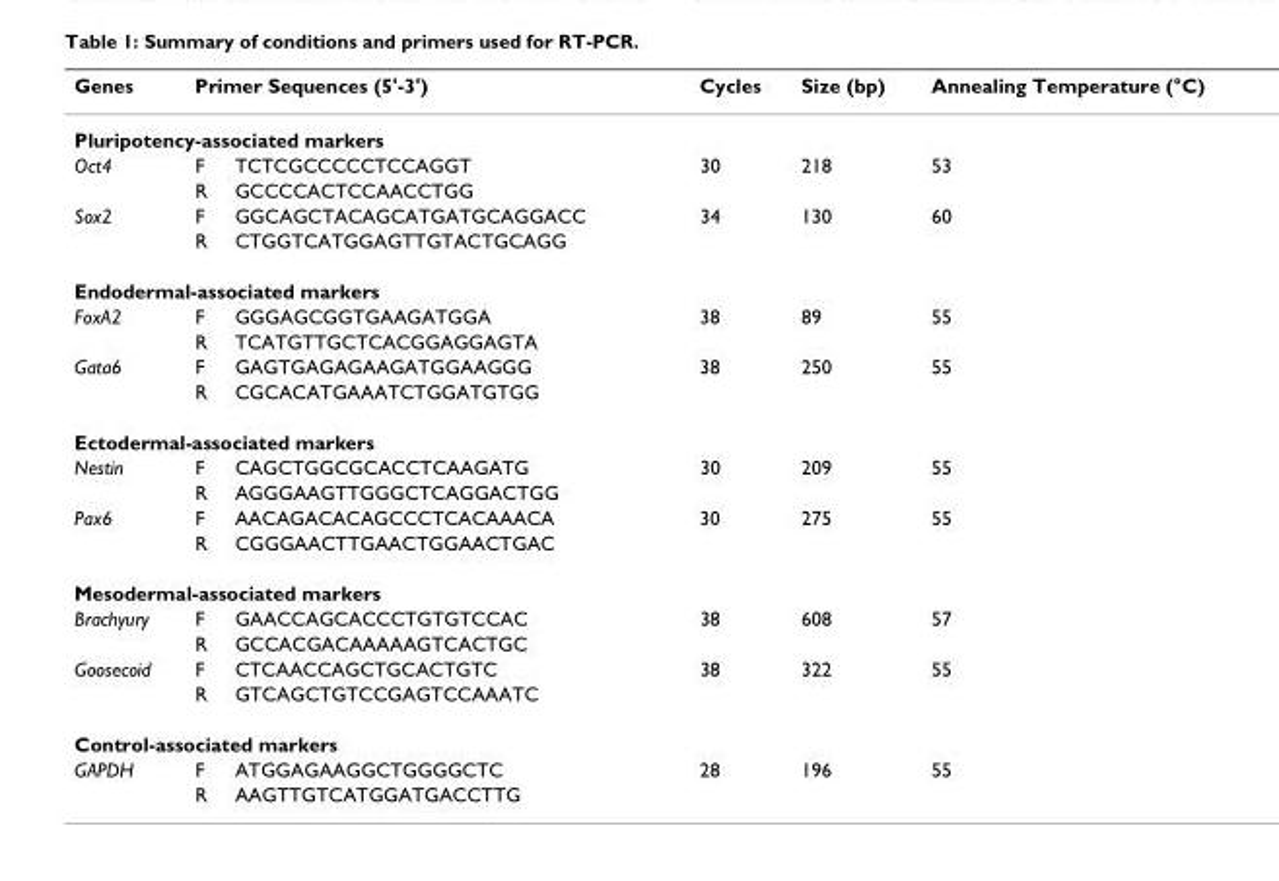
<table><thead><tr><td>Genes</td><td colspan="2">Primer Sequences (5&#x27;-3&#x27;)</td><td>Cycles</td><td>Size (bp)</td><td>Annealing Temperature (°C)</td></tr><tr><td colspan="6">Pluripotency-associated markers</td></tr><tr><td>Oct4</td><td>F</td><td>TCTCGCCCCCTCCAGGT</td><td>30</td><td>218</td><td>53</td></tr></thead><tbody><tr><td></td><td>R</td><td>GCCCCACTCCAACCTGG</td><td></td><td></td><td></td></tr><tr><td rowspan="2">Sox2</td><td>F</td><td>GGCAGCTACAGCATGATGCAGGACC</td><td>34</td><td>130</td><td>60</td></tr><tr><td>R</td><td>CTGGTCATGGAGTTGTACTGCAGG</td><td></td><td></td><td></td></tr><tr><td colspan="6">Endodermal-associated markers</td></tr><tr><td rowspan="2">FoxA2</td><td>F</td><td>GGGAGCGGTGAAGATGGA</td><td>38</td><td>89</td><td>55</td></tr><tr><td>R</td><td>TCATGTTGCTCACGGAGGAGTA</td><td></td><td></td><td></td></tr><tr><td rowspan="2">Gata6</td><td>F</td><td>GAGTGAGAGAAGATGGAAGGG</td><td>38</td><td>250</td><td>55</td></tr><tr><td>R</td><td>CGCACATGAAATCTGGATGTGG</td><td></td><td></td><td></td></tr><tr><td colspan="6">Ectodermal-associated markers</td></tr><tr><td rowspan="2">Nestin</td><td>F</td><td>CAGCTGGCGCACCTCAAGATG</td><td>30</td><td>209</td><td>55</td></tr><tr><td>R</td><td>AGGGAAGTTGGGCTCAGGACTGG</td><td></td><td></td><td></td></tr><tr><td rowspan="2">Pax6</td><td>F</td><td>AACAGACACAGCCCTCACAAACA</td><td>30</td><td>275</td><td>55</td></tr><tr><td>R</td><td>CGGGAACTTGAACTGGAACTGAC</td><td></td><td></td><td></td></tr><tr><td colspan="6">Mesodermal-associated markers</td></tr><tr><td rowspan="2">Brachyury</td><td>F</td><td>GAACCAGCACCCTGTGTCCAC</td><td>38</td><td>608</td><td>57</td></tr><tr><td>R</td><td>GCCACGACAAAAAGTCACTGC</td><td></td><td></td><td></td></tr><tr><td rowspan="2">Goosecoid</td><td>F</td><td>CTCAACCAGCTGCACTGTC</td><td>38</td><td>322</td><td>55</td></tr><tr><td>R</td><td>GTCAGCTGTCCGAGTCCAAATC</td><td></td><td></td><td></td></tr><tr><td colspan="6">Control-associated markers</td></tr><tr><td rowspan="2">GAPDH</td><td>F</td><td>ATGGAGAAGGCTGGGGCTC</td><td>28</td><td>196</td><td>55</td></tr><tr><td>R</td><td>AAGTTGTCATGGATGACCTTG</td><td></td><td></td><td></td></tr></tbody></table>